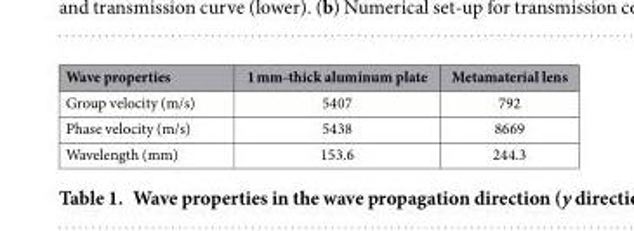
<table><thead><tr><td>Wave properties</td><td>1 mm-thick aluminum plate</td><td>Metamaterial lens</td></tr></thead><tbody><tr><td>Group velocity (m/s)</td><td>5407</td><td>792</td></tr><tr><td>Phase velocity (m/s)</td><td>5438</td><td>8669</td></tr><tr><td>Wavelength (mm)</td><td>153.6</td><td>244.3</td></tr></tbody></table>